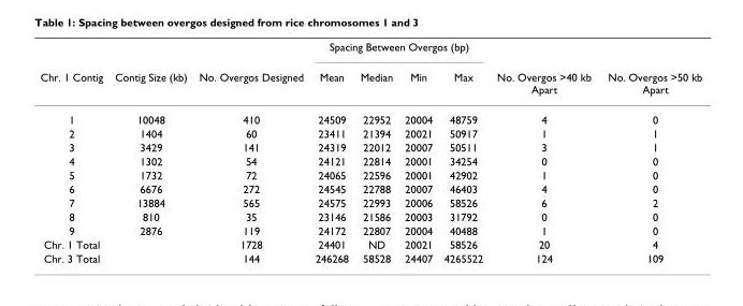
<table><thead><tr><td rowspan="2">Chr. 1 Contig</td><td rowspan="2">Contig Size (kb)</td><td rowspan="2">No. Overgos Designed</td><td colspan="4">Spacing Between Overgos (bp)</td><td rowspan="2">No. Overgos &gt;40 kb Apart</td><td rowspan="2">No. Overgos &gt;50 kb Apart</td></tr><tr><td>Mean</td><td>Median</td><td>Min</td><td>Max</td></tr></thead><tbody><tr><td>1</td><td>10048</td><td>410</td><td>24509</td><td>22952</td><td>20004</td><td>48759</td><td>4</td><td>0</td></tr><tr><td>2</td><td>1404</td><td>60</td><td>23411</td><td>21394</td><td>20021</td><td>50917</td><td>1</td><td>1</td></tr><tr><td>3</td><td>3429</td><td>141</td><td>24319</td><td>22012</td><td>20007</td><td>50511</td><td>3</td><td>1</td></tr><tr><td>4</td><td>1302</td><td>54</td><td>24121</td><td>22814</td><td>20001</td><td>34254</td><td>0</td><td>0</td></tr><tr><td>5</td><td>1732</td><td>72</td><td>24065</td><td>22596</td><td>20001</td><td>42902</td><td>1</td><td>0</td></tr><tr><td>6</td><td>6676</td><td>272</td><td>24545</td><td>22788</td><td>20007</td><td>46403</td><td>4</td><td>0</td></tr><tr><td>7</td><td>13884</td><td>565</td><td>24575</td><td>22993</td><td>20006</td><td>58526</td><td>6</td><td>2</td></tr><tr><td>8</td><td>810</td><td>35</td><td>23146</td><td>21586</td><td>20003</td><td>31792</td><td>0</td><td>0</td></tr><tr><td>9</td><td>2876</td><td>119</td><td>24172</td><td>22807</td><td>20004</td><td>40488</td><td>1</td><td>0</td></tr><tr><td>Chr. 1 Total</td><td></td><td>1728</td><td>24401</td><td>ND</td><td>20021</td><td>58526</td><td>20</td><td>4</td></tr><tr><td>Chr. 3 Total</td><td></td><td>144</td><td>246268</td><td>58528</td><td>24407</td><td>4265522</td><td>124</td><td>109</td></tr></tbody></table>